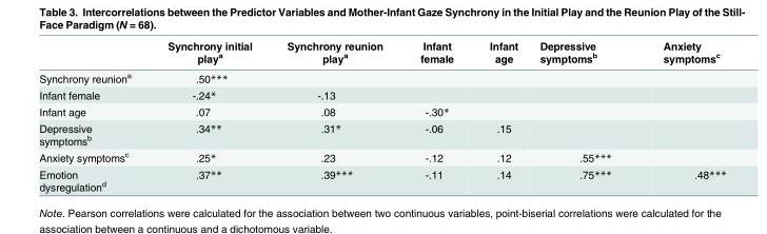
<table><thead><tr><td></td><td>Synchrony initial play<sup>a</sup></td><td>Synchrony reunion play<sup>a</sup></td><td>Infant female</td><td>Infant age</td><td>Depressive symptoms<sup>b</sup></td><td>Anxiety symptoms<sup>c</sup></td></tr></thead><tbody><tr><td>Synchrony reunion<sup>a</sup></td><td>.50***</td><td></td><td></td><td></td><td></td><td></td></tr><tr><td>Infant female</td><td>-.24*</td><td>-.13</td><td></td><td></td><td></td><td></td></tr><tr><td>Infant age</td><td>.07</td><td>.08</td><td>-.30*</td><td></td><td></td><td></td></tr><tr><td>Depressive symptoms<sup>b</sup></td><td>.34**</td><td>.31*</td><td>-.06</td><td>.15</td><td></td><td></td></tr><tr><td>Anxiety symptoms<sup>c</sup></td><td>.25*</td><td>.23</td><td>-.12</td><td>.12</td><td>.55***</td><td></td></tr><tr><td>Emotion dysregulation<sup>d</sup></td><td>.37**</td><td>.39***</td><td>-.11</td><td>.14</td><td>.75***</td><td>.48***</td></tr></tbody></table>